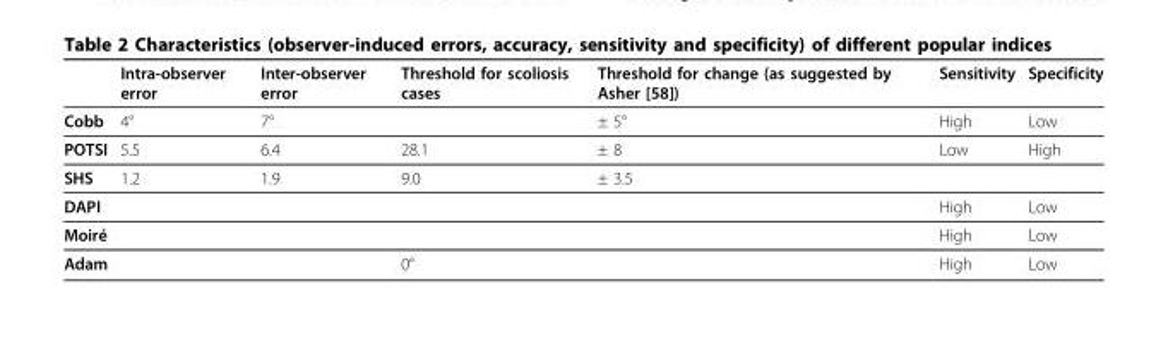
<table><thead><tr><td></td><td>Intra-observer error</td><td>Inter-observer error</td><td>Threshold for scoliosis cases</td><td>Threshold for change (as suggested by Asher [58])</td><td>Sensitivity</td><td>Specificity</td></tr></thead><tbody><tr><td>Cobb</td><td>4°</td><td>7°</td><td></td><td>± 5°</td><td>High</td><td>Low</td></tr><tr><td>POTSI</td><td>5.5</td><td>6.4</td><td>28.1</td><td>± 8</td><td>Low</td><td>High</td></tr><tr><td>SHS</td><td>1.2</td><td>1.9</td><td>9.0</td><td>± 3.5</td><td></td><td></td></tr><tr><td>DAPI</td><td></td><td></td><td></td><td></td><td>High</td><td>Low</td></tr><tr><td>Moiré</td><td></td><td></td><td></td><td></td><td>High</td><td>Low</td></tr><tr><td>Adam</td><td></td><td></td><td>0°</td><td></td><td>High</td><td>Low</td></tr></tbody></table>